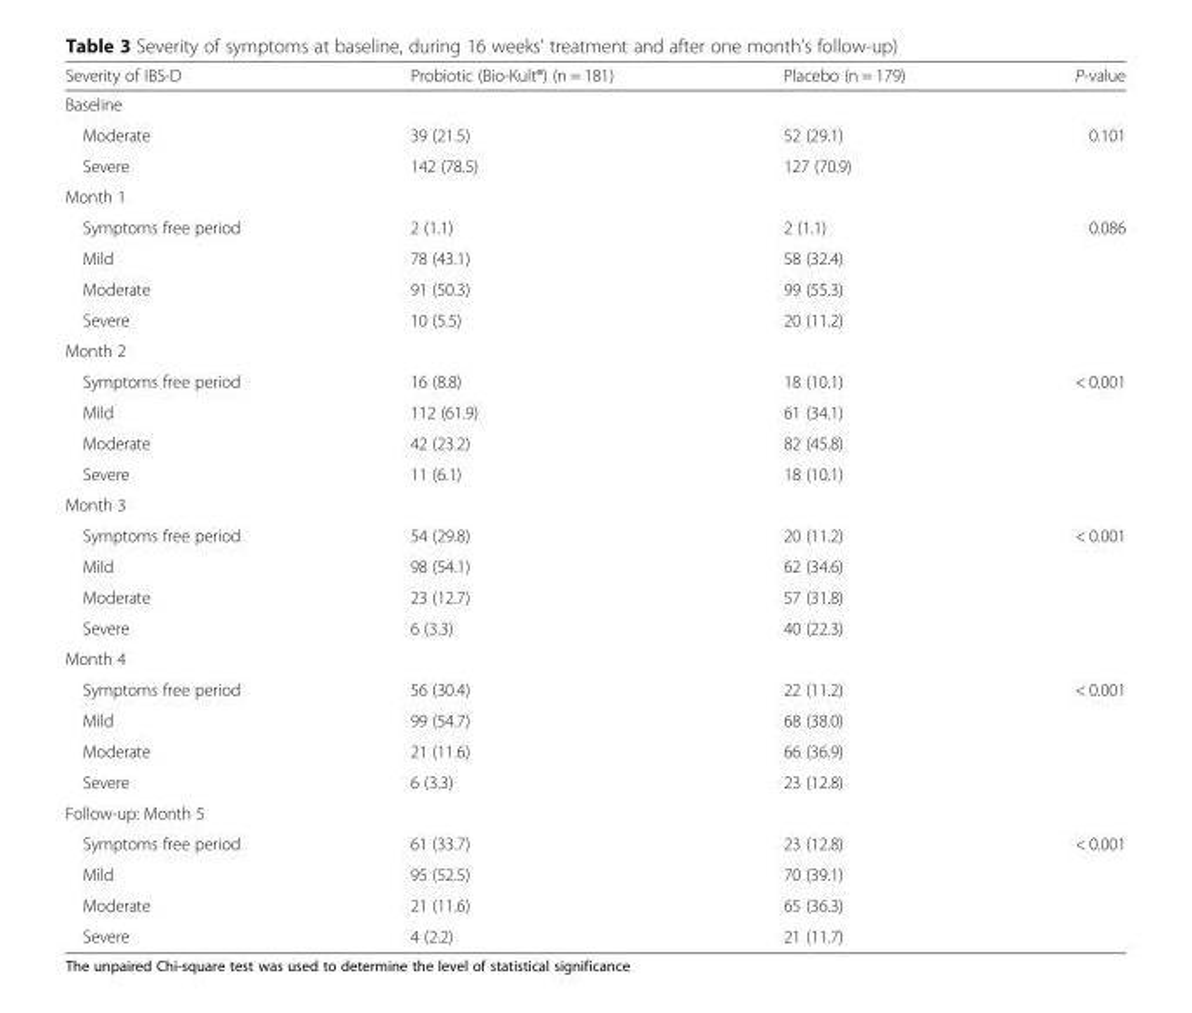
<table><thead><tr><td>Severity of IBS-D</td><td>Probiotic (Bio-Kult®) (n = 181)</td><td>Placebo (n = 179)</td><td>P-value</td></tr></thead><tbody><tr><td colspan="4">Baseline</td></tr><tr><td>Moderate</td><td>39 (21.5)</td><td>52 (29.1)</td><td rowspan="2">0.101</td></tr><tr><td>Severe</td><td>142 (78.5)</td><td>127 (70.9)</td></tr><tr><td colspan="4">Month 1</td></tr><tr><td>Symptoms free period</td><td>2 (1.1)</td><td>2 (1.1)</td><td rowspan="4">0.086</td></tr><tr><td>Mild</td><td>78 (43.1)</td><td>58 (32.4)</td></tr><tr><td>Moderate</td><td>91 (50.3)</td><td>99 (55.3)</td></tr><tr><td>Severe</td><td>10 (5.5)</td><td>20 (11.2)</td></tr><tr><td colspan="4">Month 2</td></tr><tr><td>Symptoms free period</td><td>16 (8.8)</td><td>18 (10.1)</td><td rowspan="4">&lt; 0.001</td></tr><tr><td>Mild</td><td>112 (61.9)</td><td>61 (34.1)</td></tr><tr><td>Moderate</td><td>42 (23.2)</td><td>82 (45.8)</td></tr><tr><td>Severe</td><td>11 (6.1)</td><td>18 (10.1)</td></tr><tr><td colspan="4">Month 3</td></tr><tr><td>Symptoms free period</td><td>54 (29.8)</td><td>20 (11.2)</td><td rowspan="4">&lt; 0.001</td></tr><tr><td>Mild</td><td>98 (54.1)</td><td>62 (34.6)</td></tr><tr><td>Moderate</td><td>23 (12.7)</td><td>57 (31.8)</td></tr><tr><td>Severe</td><td>6 (3.3)</td><td>40 (22.3)</td></tr><tr><td colspan="4">Month 4</td></tr><tr><td>Symptoms free period</td><td>56 (30.4)</td><td>22 (11.2)</td><td rowspan="4">&lt; 0.001</td></tr><tr><td>Mild</td><td>99 (54.7)</td><td>68 (38.0)</td></tr><tr><td>Moderate</td><td>21 (11.6)</td><td>66 (36.9)</td></tr><tr><td>Severe</td><td>6 (3.3)</td><td>23 (12.8)</td></tr><tr><td colspan="4">Follow-up: Month 5</td></tr><tr><td>Symptoms free period</td><td>61 (33.7)</td><td>23 (12.8)</td><td rowspan="4">&lt; 0.001</td></tr><tr><td>Mild</td><td>95 (52.5)</td><td>70 (39.1)</td></tr><tr><td>Moderate</td><td>21 (11.6)</td><td>65 (36.3)</td></tr><tr><td>Severe</td><td>4 (2.2)</td><td>21 (11.7)</td></tr></tbody></table>